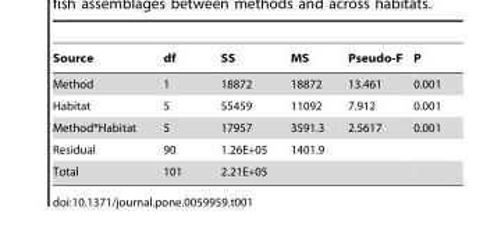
<table><thead><tr><td>Source</td><td>df</td><td>SS</td><td>MS</td><td>Pseudo-F</td><td>P</td></tr></thead><tbody><tr><td>Method</td><td>1</td><td>18872</td><td>18872</td><td>13.461</td><td>0.001</td></tr><tr><td>Habitat</td><td>5</td><td>55459</td><td>11092</td><td>7.912</td><td>0.001</td></tr><tr><td>Method*Habitat</td><td>5</td><td>17957</td><td>3591.3</td><td>2.5617</td><td>0.001</td></tr><tr><td>Residual</td><td>90</td><td>1.26E+05</td><td>1401.9</td><td></td><td></td></tr><tr><td>Total</td><td>101</td><td>2.21E+05</td><td></td><td></td><td></td></tr></tbody></table>